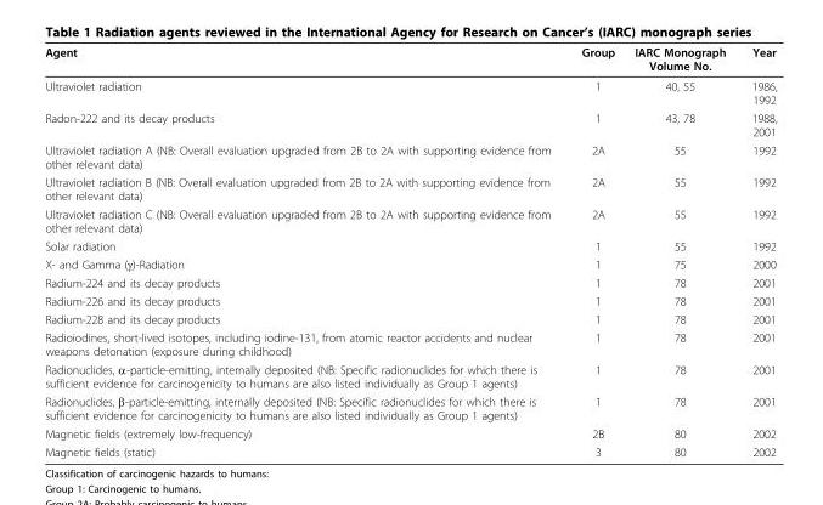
<table><thead><tr><td>Agent</td><td>Group</td><td>IARC Monograph Volume No.</td><td>Year</td></tr></thead><tbody><tr><td>Ultraviolet radiation</td><td>1</td><td>40, 55</td><td>1986, 1992</td></tr><tr><td>Radon-222 and its decay products</td><td>1</td><td>43, 78</td><td>1988, 2001</td></tr><tr><td>Ultraviolet radiation A (NB: Overall evaluation upgraded from 2B to 2A with supporting evidence from other relevant data)</td><td>2A</td><td>55</td><td>1992</td></tr><tr><td>Ultraviolet radiation B (NB: Overall evaluation upgraded from 2B to 2A with supporting evidence from other relevant data)</td><td>2A</td><td>55</td><td>1992</td></tr><tr><td>Ultraviolet radiation C (NB: Overall evaluation upgraded from 2B to 2A with supporting evidence from other relevant data)</td><td>2A</td><td>55</td><td>1992</td></tr><tr><td>Solar radiation</td><td>1</td><td>55</td><td>1992</td></tr><tr><td>X- and Gamma (γ)-Radiation</td><td>1</td><td>75</td><td>2000</td></tr><tr><td>Radium-224 and its decay products</td><td>1</td><td>78</td><td>2001</td></tr><tr><td>Radium-226 and its decay products</td><td>1</td><td>78</td><td>2001</td></tr><tr><td>Radium-228 and its decay products</td><td>1</td><td>78</td><td>2001</td></tr><tr><td>Radioiodines, short-lived isotopes, including iodine-131, from atomic reactor accidents and nuclear weapons detonation (exposure during childhood)</td><td>1</td><td>78</td><td>2001</td></tr><tr><td>Radionuclides, α-particle-emitting, internally deposited (NB: Specific radionuclides for which there is sufficient evidence for carcinogenicity to humans are also listed individually as Group 1 agents)</td><td>1</td><td>78</td><td>2001</td></tr><tr><td>Radionuclides, β-particle-emitting, internally deposited (NB: Specific radionuclides for which there is sufficient evidence for carcinogenicity to humans are also listed individually as Group 1 agents)</td><td>1</td><td>78</td><td>2001</td></tr><tr><td>Magnetic fields (extremely low-frequency)</td><td>2B</td><td>80</td><td>2002</td></tr><tr><td>Magnetic fields (static)</td><td>3</td><td>80</td><td>2002</td></tr></tbody></table>